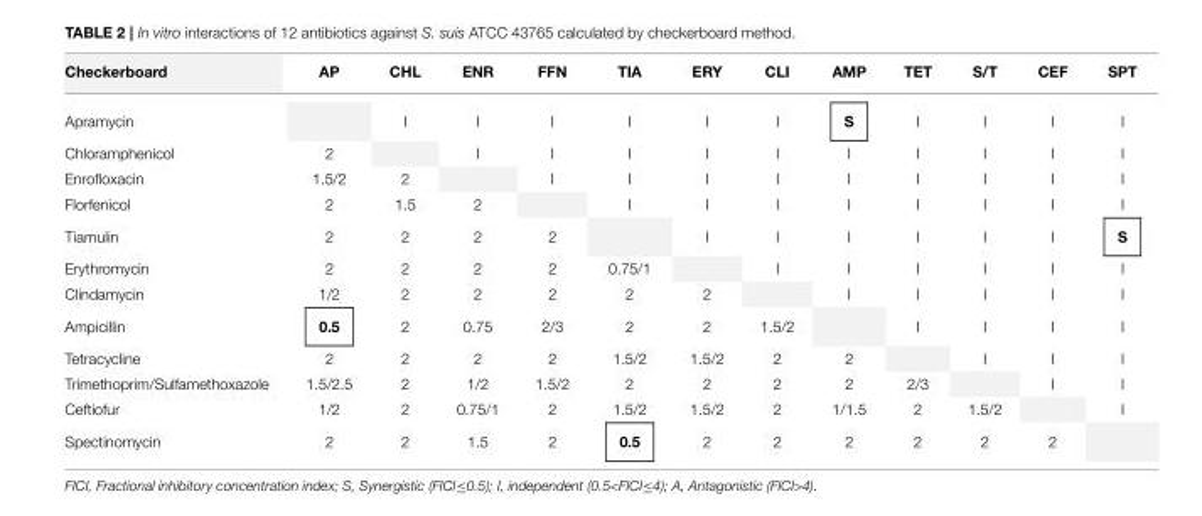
<table><thead><tr><td>Checkerboard</td><td>AP</td><td>CHL</td><td>ENR</td><td>FFN</td><td>TIA</td><td>ERY</td><td>CLI</td><td>AMP</td><td>TET</td><td>S/T</td><td>CEF</td><td>SPT</td></tr></thead><tbody><tr><td>Apramycin</td><td></td><td>I</td><td>I</td><td>I</td><td>I</td><td>I</td><td>I</td><td>S</td><td>I</td><td>I</td><td>I</td><td>I</td></tr><tr><td>Chloramphenicol</td><td>2</td><td></td><td>I</td><td>I</td><td>I</td><td>I</td><td>I</td><td>I</td><td>I</td><td>I</td><td>I</td><td>I</td></tr><tr><td>Enrofloxacin</td><td>1.5/2</td><td>2</td><td></td><td>I</td><td>I</td><td>I</td><td>I</td><td>I</td><td>I</td><td>I</td><td>I</td><td>I</td></tr><tr><td>Florfenicol</td><td>2</td><td>1.5</td><td>2</td><td></td><td>I</td><td>I</td><td>I</td><td>I</td><td>I</td><td>I</td><td>I</td><td>I</td></tr><tr><td>Tiamulin</td><td>2</td><td>2</td><td>2</td><td>2</td><td></td><td>I</td><td>I</td><td>I</td><td>I</td><td>I</td><td>I</td><td>S</td></tr><tr><td>Erythromycin</td><td>2</td><td>2</td><td>2</td><td>2</td><td>0.75/1</td><td></td><td>I</td><td>I</td><td>I</td><td>I</td><td>I</td><td>I</td></tr><tr><td>Clindamycin</td><td>1/2</td><td>2</td><td>2</td><td>2</td><td>2</td><td>2</td><td></td><td>I</td><td>I</td><td>I</td><td>I</td><td>I</td></tr><tr><td>Ampicillin</td><td>0.5</td><td>2</td><td>0.75</td><td>2/3</td><td>2</td><td>2</td><td>1.5/2</td><td></td><td>I</td><td>I</td><td>I</td><td>I</td></tr><tr><td>Tetracycline</td><td>2</td><td>2</td><td>2</td><td>2</td><td>1.5/2</td><td>1.5/2</td><td>2</td><td>2</td><td></td><td>I</td><td>I</td><td>I</td></tr><tr><td>Trimethoprim/Sulfamethoxazole</td><td>1.5/2.5</td><td>2</td><td>1/2</td><td>1.5/2</td><td>2</td><td>2</td><td>2</td><td>2</td><td>2/3</td><td></td><td>I</td><td>I</td></tr><tr><td>Ceftiofur</td><td>1/2</td><td>2</td><td>0.75/1</td><td>2</td><td>1.5/2</td><td>1.5/2</td><td>2</td><td>1/1.5</td><td>2</td><td>1.5/2</td><td></td><td>I</td></tr><tr><td>Spectinomycin</td><td>2</td><td>2</td><td>1.5</td><td>2</td><td>0.5</td><td>2</td><td>2</td><td>2</td><td>2</td><td>2</td><td>2</td><td></td></tr></tbody></table>